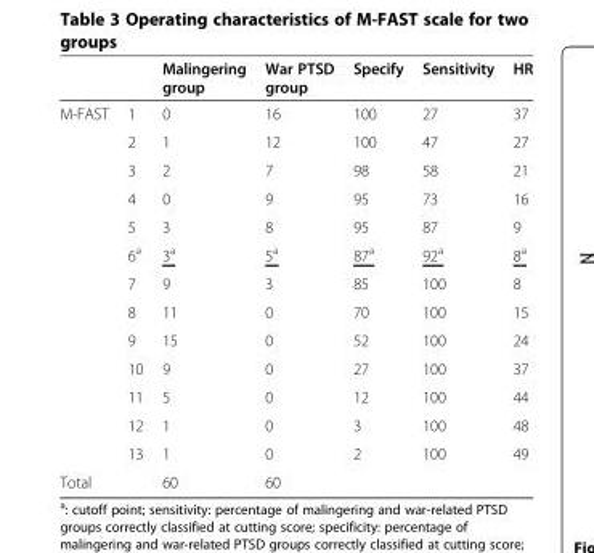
<table><thead><tr><td></td><td></td><td>Malingering group</td><td>War PTSD group</td><td>Specify</td><td>Sensitivity</td><td>HR</td></tr></thead><tbody><tr><td rowspan="13">M-FAST</td><td>1</td><td>0</td><td>16</td><td>100</td><td>27</td><td>37</td></tr><tr><td>2</td><td>1</td><td>12</td><td>100</td><td>47</td><td>27</td></tr><tr><td>3</td><td>2</td><td>7</td><td>98</td><td>58</td><td>21</td></tr><tr><td>4</td><td>0</td><td>9</td><td>95</td><td>73</td><td>16</td></tr><tr><td>5</td><td>3</td><td>8</td><td>95</td><td>87</td><td>9</td></tr><tr><td>6<sup>a</sup></td><td>3<sup>a</sup></td><td>5<sup>a</sup></td><td>87<sup>a</sup></td><td>92<sup>a</sup></td><td>8<sup>a</sup></td></tr><tr><td>7</td><td>9</td><td>3</td><td>85</td><td>100</td><td>8</td></tr><tr><td>8</td><td>11</td><td>0</td><td>70</td><td>100</td><td>15</td></tr><tr><td>9</td><td>15</td><td>0</td><td>52</td><td>100</td><td>24</td></tr><tr><td>10</td><td>9</td><td>0</td><td>27</td><td>100</td><td>37</td></tr><tr><td>11</td><td>5</td><td>0</td><td>12</td><td>100</td><td>44</td></tr><tr><td>12</td><td>1</td><td>0</td><td>3</td><td>100</td><td>48</td></tr><tr><td>13</td><td>1</td><td>0</td><td>2</td><td>100</td><td>49</td></tr><tr><td colspan="2">Total</td><td>60</td><td>60</td><td></td><td></td><td></td></tr></tbody></table>